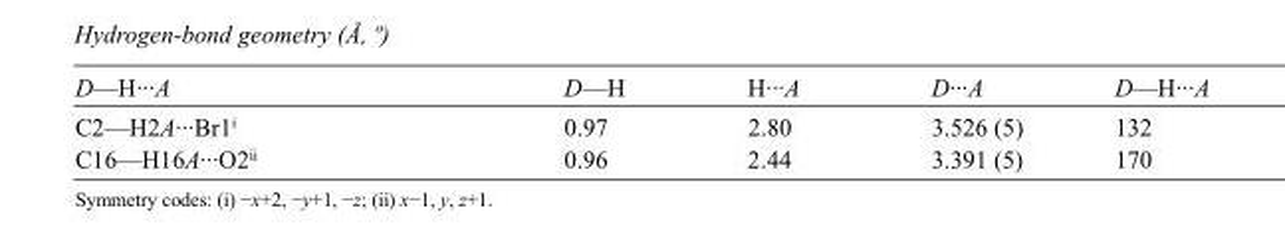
<table><tbody><tr><td>D—H···A</td><td>D—H</td><td>H···A</td><td>D···A</td><td>D—H···A</td></tr><tr><td>C2—H2A···Br1<sup>i</sup></td><td>0.97</td><td>2.80</td><td>3.526 (5)</td><td>132</td></tr><tr><td>C16—H16A···O2<sup>ii</sup></td><td>0.96</td><td>2.44</td><td>3.391 (5)</td><td>170</td></tr></tbody></table>